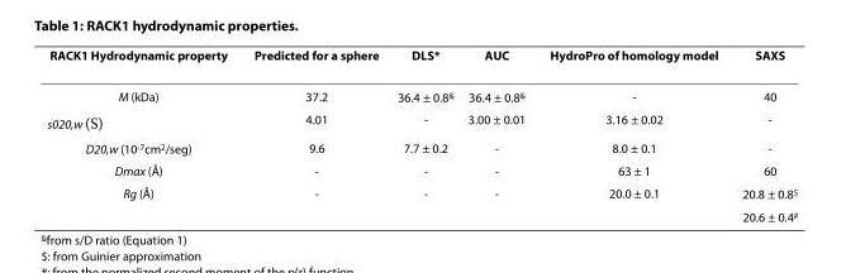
<table><thead><tr><td>RACK1 Hydrodynamic property</td><td>Predicted for a sphere</td><td>DLS*</td><td>AUC</td><td>HydroPro of homology model</td><td>SAXS</td></tr></thead><tbody><tr><td>M (kDa)</td><td>37.2</td><td>36.4 ± 0.8<sup>&amp;</sup></td><td>36.4 ± 0.8<sup>&amp;</sup></td><td>-</td><td>40</td></tr><tr><td>s<sup>0</sup>20,w (S)</td><td>4.01</td><td>-</td><td>3.00 ± 0.01</td><td>3.16 ± 0.02</td><td>-</td></tr><tr><td>D20,w (10<sup>-7</sup>cm<sup>2</sup>/seg)</td><td>9.6</td><td>7.7 ± 0.2</td><td>-</td><td>8.0 ± 0.1</td><td>-</td></tr><tr><td>Dmax (Å)</td><td>-</td><td>-</td><td>-</td><td>63 ± 1</td><td>60</td></tr><tr><td rowspan="2">Rg (Å)</td><td>-</td><td>-</td><td>-</td><td>20.0 ± 0.1</td><td>20.8 ± 0.8<sup>$</sup></td></tr><tr><td></td><td></td><td></td><td></td><td>20.6 ± 0.4<sup>#</sup></td></tr></tbody></table>